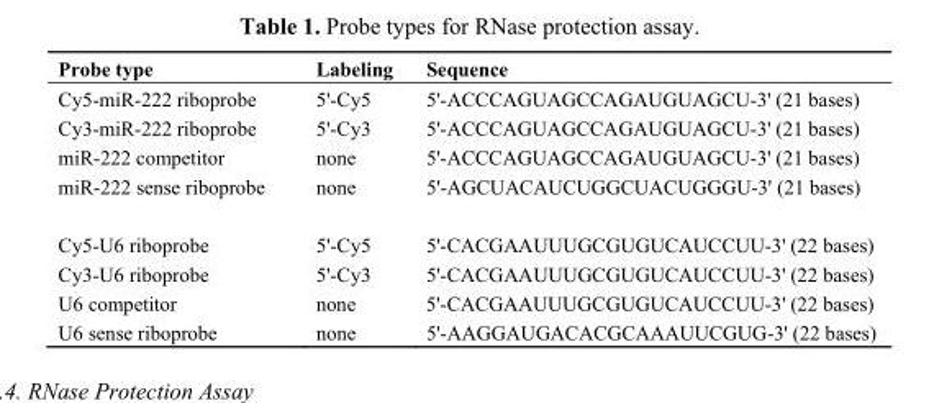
<table><thead><tr><td>Probe type</td><td>Labeling</td><td>Sequence</td></tr></thead><tbody><tr><td>Cy5-miR-222 riboprobe</td><td>5&#x27;-Cy5</td><td>5&#x27;-ACCCAGUAGCCAGAUGUAGCU-3&#x27; (21 bases)</td></tr><tr><td>Cy3-miR-222 riboprobe</td><td>5&#x27;-Cy3</td><td>5&#x27;-ACCCAGUAGCCAGAUGUAGCU-3&#x27; (21 bases)</td></tr><tr><td>miR-222 competitor</td><td>none</td><td>5&#x27;-ACCCAGUAGCCAGAUGUAGCU-3&#x27; (21 bases)</td></tr><tr><td>miR-222 sense riboprobe</td><td>none</td><td>5&#x27;-AGCUACAUCUGGCUACUGGGU-3&#x27; (21 bases)</td></tr><tr><td>Cy5-U6 riboprobe</td><td>5&#x27;-Cy5</td><td>5&#x27;-CACGAAUUUGCGUGUCAUCCUU-3&#x27; (22 bases)</td></tr><tr><td>Cy3-U6 riboprobe</td><td>5&#x27;-Cy3</td><td>5&#x27;-CACGAAUUUGCGUGUCAUCCUU-3&#x27; (22 bases)</td></tr><tr><td>U6 competitor</td><td>none</td><td>5&#x27;-CACGAAUUUGCGUGUCAUCCUU-3&#x27; (22 bases)</td></tr><tr><td>U6 sense riboprobe</td><td>none</td><td>5&#x27;-AAGGAUGACACGCAAAUUCGUG-3&#x27; (22 bases)</td></tr></tbody></table>